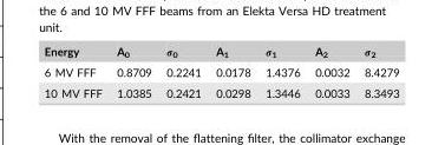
<table><thead><tr><td>Energy</td><td>A<sub>0</sub></td><td>σ<sub>0</sub></td><td>A<sub>1</sub></td><td>σ<sub>1</sub></td><td>A<sub>2</sub></td><td>σ<sub>2</sub></td></tr></thead><tbody><tr><td>6 MV FFF</td><td>0.8709</td><td>0.2241</td><td>0.0178</td><td>1.4376</td><td>0.0032</td><td>8.4279</td></tr><tr><td>10 MV FFF</td><td>1.0385</td><td>0.2421</td><td>0.0298</td><td>1.3446</td><td>0.0033</td><td>8.3493</td></tr></tbody></table>